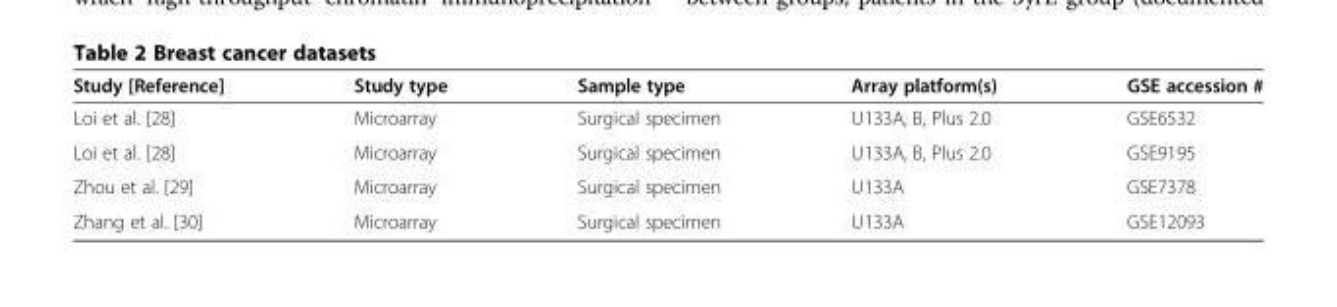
<table><thead><tr><td>Study [Reference]</td><td>Study type</td><td>Sample type</td><td>Array platform(s)</td><td>GSE accession #</td></tr></thead><tbody><tr><td>Loi et al. [28]</td><td>Microarray</td><td>Surgical specimen</td><td>U133A, B, Plus 2.0</td><td>GSE6532</td></tr><tr><td>Loi et al. [28]</td><td>Microarray</td><td>Surgical specimen</td><td>U133A, B, Plus 2.0</td><td>GSE9195</td></tr><tr><td>Zhou et al. [29]</td><td>Microarray</td><td>Surgical specimen</td><td>U133A</td><td>GSE7378</td></tr><tr><td>Zhang et al. [30]</td><td>Microarray</td><td>Surgical specimen</td><td>U133A</td><td>GSE12093</td></tr></tbody></table>